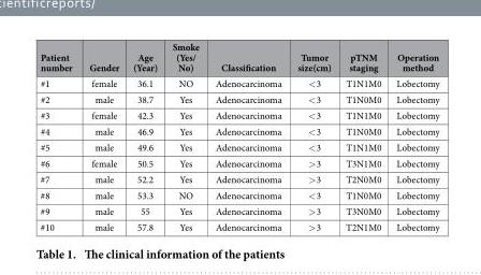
<table><thead><tr><td>Patient number</td><td>Gender</td><td>Age (Year)</td><td>Smoke (Yes/ No)</td><td>Classification</td><td>Tumor size(cm)</td><td>pTNM staging</td><td>Operation method</td></tr></thead><tbody><tr><td>#1</td><td>female</td><td>36.1</td><td>NO</td><td>Adenocarcinoma</td><td>&lt; 3</td><td>T1N1M0</td><td>Lobectomy</td></tr><tr><td>#2</td><td>male</td><td>38.7</td><td>Yes</td><td>Adenocarcinoma</td><td>&lt; 3</td><td>T1N0M0</td><td>Lobectomy</td></tr><tr><td>#3</td><td>female</td><td>42.3</td><td>Yes</td><td>Adenocarcinoma</td><td>&lt; 3</td><td>T1N1M0</td><td>Lobectomy</td></tr><tr><td>#4</td><td>male</td><td>46.9</td><td>Yes</td><td>Adenocarcinoma</td><td>&lt; 3</td><td>T1N0M0</td><td>Lobectomy</td></tr><tr><td>#5</td><td>male</td><td>49.6</td><td>Yes</td><td>Adenocarcinoma</td><td>&lt; 3</td><td>T1N1M0</td><td>Lobectomy</td></tr><tr><td>#6</td><td>female</td><td>50.5</td><td>Yes</td><td>Adenocarcinoma</td><td>&gt; 3</td><td>T3N1M0</td><td>Lobectomy</td></tr><tr><td>#7</td><td>male</td><td>52.2</td><td>Yes</td><td>Adenocarcinoma</td><td>&gt; 3</td><td>T2N0M0</td><td>Lobectomy</td></tr><tr><td>#8</td><td>male</td><td>53.3</td><td>NO</td><td>Adenocarcinoma</td><td>&lt; 3</td><td>T1N0M0</td><td>Lobectomy</td></tr><tr><td>#9</td><td>male</td><td>55</td><td>Yes</td><td>Adenocarcinoma</td><td>&gt; 3</td><td>T3N0M0</td><td>Lobectomy</td></tr><tr><td>#10</td><td>male</td><td>57.8</td><td>Yes</td><td>Adenocarcinoma</td><td>&gt; 3</td><td>T2N1M0</td><td>Lobectomy</td></tr></tbody></table>